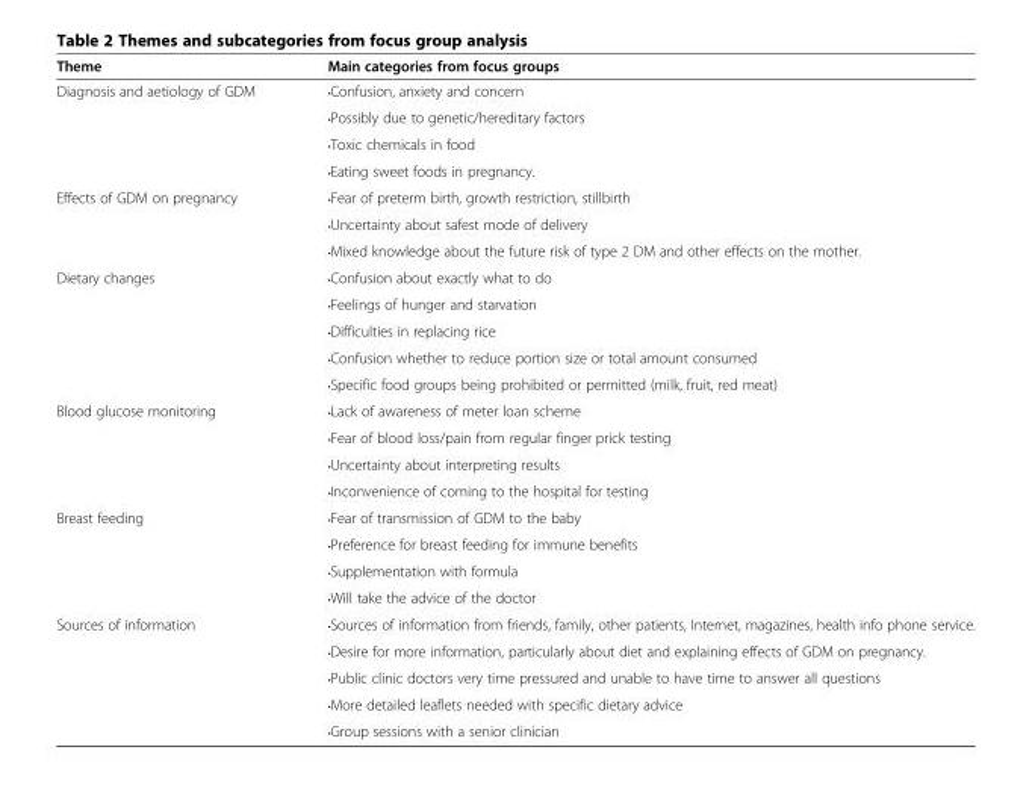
<table><thead><tr><td>Theme</td><td>Main categories from focus groups</td></tr></thead><tbody><tr><td rowspan="4">Diagnosis and aetiology of GDM</td><td>•Confusion, anxiety and concern</td></tr><tr><td>•Possibly due to genetic/hereditary factors</td></tr><tr><td>•Toxic chemicals in food</td></tr><tr><td>•Eating sweet foods in pregnancy.</td></tr><tr><td rowspan="3">Effects of GDM on pregnancy</td><td>•Fear of preterm birth, growth restriction, stillbirth</td></tr><tr><td>•Uncertainty about safest mode of delivery</td></tr><tr><td>•Mixed knowledge about the future risk of type 2 DM and other effects on the mother.</td></tr><tr><td rowspan="5">Dietary changes</td><td>•Confusion about exactly what to do</td></tr><tr><td>•Feelings of hunger and starvation</td></tr><tr><td>•Difficulties in replacing rice</td></tr><tr><td>•Confusion whether to reduce portion size or total amount consumed</td></tr><tr><td>•Specific food groups being prohibited or permitted (milk, fruit, red meat)</td></tr><tr><td rowspan="4">Blood glucose monitoring</td><td>•Lack of awareness of meter loan scheme</td></tr><tr><td>•Fear of blood loss/pain from regular finger prick testing</td></tr><tr><td>•Uncertainty about interpreting results</td></tr><tr><td>•Inconvenience of coming to the hospital for testing</td></tr><tr><td rowspan="4">Breast feeding</td><td>•Fear of transmission of GDM to the baby</td></tr><tr><td>•Preference for breast feeding for immune benefits</td></tr><tr><td>•Supplementation with formula</td></tr><tr><td>•Will take the advice of the doctor</td></tr><tr><td rowspan="5">Sources of information</td><td>•Sources of information from friends, family, other patients, Internet, magazines, health info phone service.</td></tr><tr><td>•Desire for more information, particularly about diet and explaining effects of GDM on pregnancy.</td></tr><tr><td>•Public clinic doctors very time pressured and unable to have time to answer all questions</td></tr><tr><td>•More detailed leaflets needed with specific dietary advice</td></tr><tr><td>•Group sessions with a senior clinician</td></tr></tbody></table>